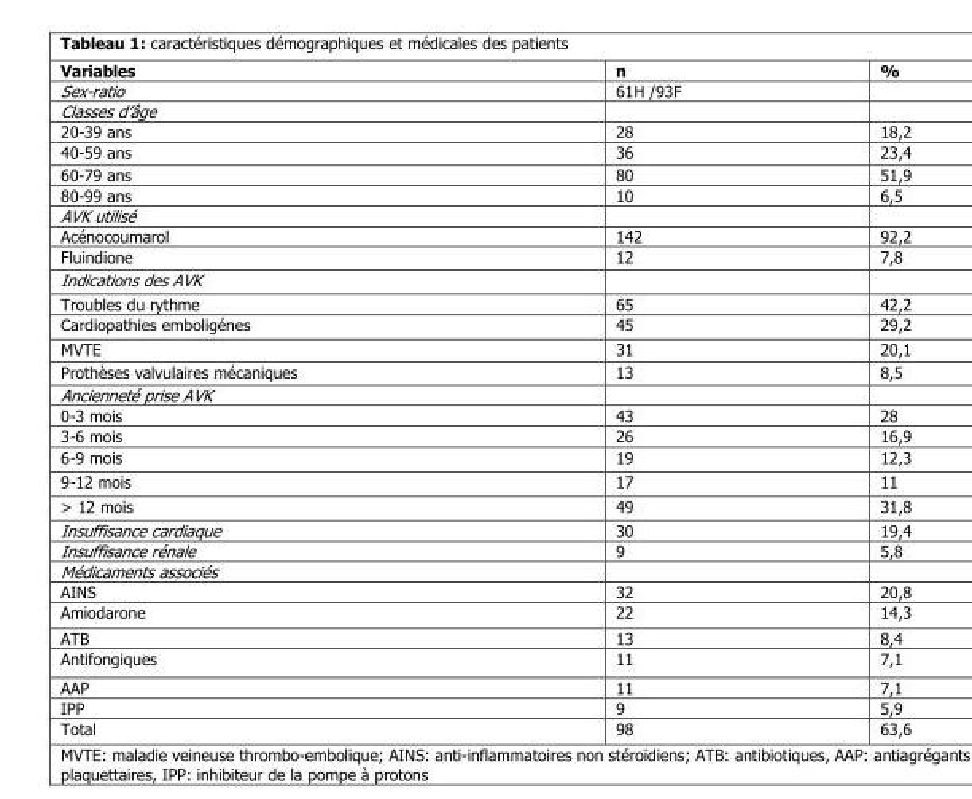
<table><thead><tr><td>Variables</td><td>n</td><td>%</td></tr></thead><tbody><tr><td>Sex-ratio</td><td>61H /93F</td><td></td></tr><tr><td colspan="3">Classes d’âge</td></tr><tr><td>20-39 ans</td><td>28</td><td>18,2</td></tr><tr><td>40-59 ans</td><td>36</td><td>23,4</td></tr><tr><td>60-79 ans</td><td>80</td><td>51,9</td></tr><tr><td>80-99 ans</td><td>10</td><td>6,5</td></tr><tr><td colspan="3">AVK utilisé</td></tr><tr><td>Acénocoumarol</td><td>142</td><td>92,2</td></tr><tr><td>Fluindione</td><td>12</td><td>7,8</td></tr><tr><td colspan="3">Indications des AVK</td></tr><tr><td>Troubles du rythme</td><td>65</td><td>42,2</td></tr><tr><td>Cardiopathies emboligénes</td><td>45</td><td>29,2</td></tr><tr><td>MVTE</td><td>31</td><td>20,1</td></tr><tr><td>Prothèses valvulaires mécaniques</td><td>13</td><td>8,5</td></tr><tr><td colspan="3">Ancienneté prise AVK</td></tr><tr><td>0-3 mois</td><td>43</td><td>28</td></tr><tr><td>3-6 mois</td><td>26</td><td>16,9</td></tr><tr><td>6-9 mois</td><td>19</td><td>12,3</td></tr><tr><td>9-12 mois</td><td>17</td><td>11</td></tr><tr><td>˃ 12 mois</td><td>49</td><td>31,8</td></tr><tr><td>Insuffisance cardiaque</td><td>30</td><td>19,4</td></tr><tr><td>Insuffisance rénale</td><td>9</td><td>5,8</td></tr><tr><td colspan="3">Médicaments associés</td></tr><tr><td>AINS</td><td>32</td><td>20,8</td></tr><tr><td>Amiodarone</td><td>22</td><td>14,3</td></tr><tr><td>ATB</td><td>13</td><td>8,4</td></tr><tr><td>Antifongiques</td><td>11</td><td>7,1</td></tr><tr><td>AAP</td><td>11</td><td>7,1</td></tr><tr><td>IPP</td><td>9</td><td>5,9</td></tr><tr><td>Total</td><td>98</td><td>63,6</td></tr></tbody></table>